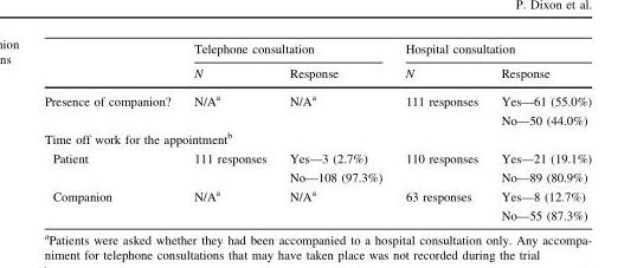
<table><thead><tr><td rowspan="2"></td><td colspan="2">Telephone consultation</td><td colspan="2">Hospital consultation</td></tr><tr><td>N</td><td>Response</td><td>N</td><td>Response</td></tr></thead><tbody><tr><td>Presence of companion?</td><td>N/A<sup>a</sup></td><td>N/A<sup>a</sup></td><td>111 responses</td><td>Yes—61 (55.0%) No—50 (44.0%)</td></tr><tr><td colspan="5">Time off work for the appointment<sup>b</sup></td></tr><tr><td>Patient</td><td>111 responses</td><td>Yes—3 (2.7%) No—108 (97.3%)</td><td>110 responses</td><td>Yes—21 (19.1%) No—89 (80.9%)</td></tr><tr><td>Companion</td><td>N/A<sup>a</sup></td><td>N/A<sup>a</sup></td><td>63 responses</td><td>Yes—8 (12.7%) No—55 (87.3%)</td></tr></tbody></table>